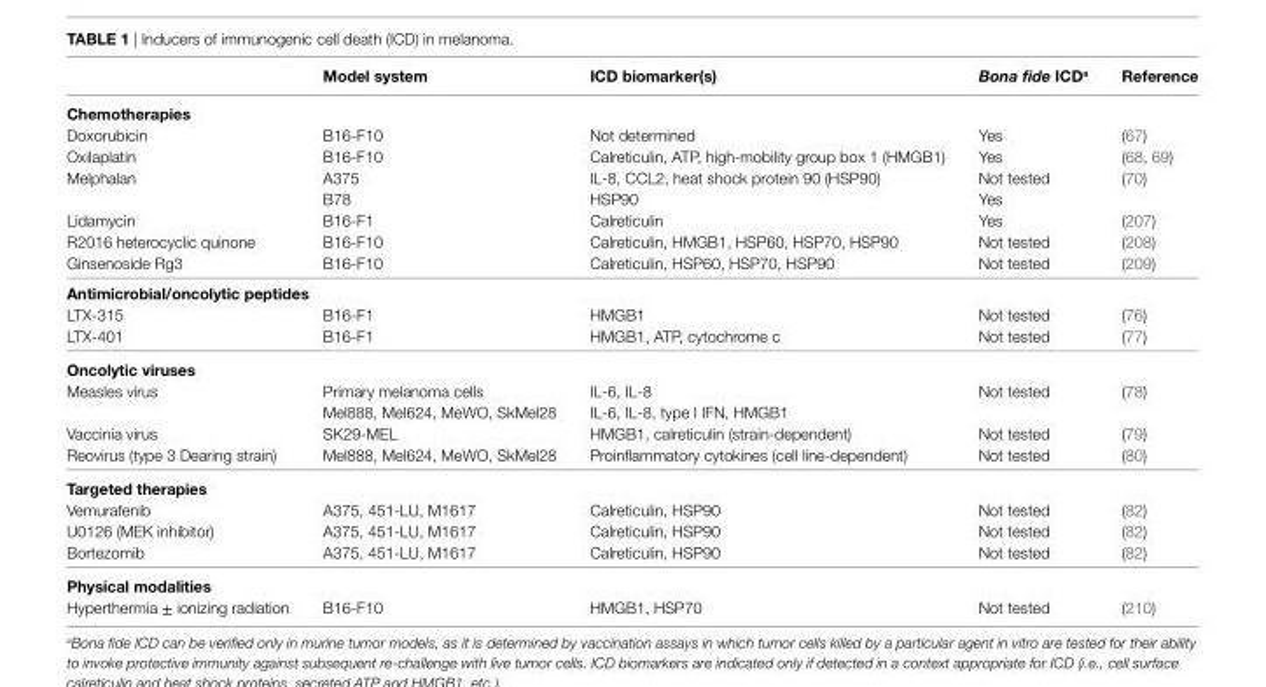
<table><thead><tr><td></td><td>Model system</td><td>iCD biomarker(s)</td><td>Bona fide iCD<sup>a</sup></td><td>Reference</td></tr></thead><tbody><tr><td colspan="5">Chemotherapies</td></tr><tr><td>Doxorubicin</td><td>B16-F10</td><td>Not determined</td><td>Yes</td><td>(67)</td></tr><tr><td>Oxilaplatin</td><td>B16-F10</td><td>Calreticulin, ATP, high-mobility group box 1 (HMGB1)</td><td>Yes</td><td>(68, 69)</td></tr><tr><td rowspan="2">Melphalan</td><td>A375</td><td>IL-8, CCL2, heat shock protein 90 (HSP90)</td><td>Not tested</td><td rowspan="2">(70)</td></tr><tr><td>B78</td><td>HSP90</td><td>Yes</td></tr><tr><td>Lidamycin</td><td>B16-F1</td><td>Calreticulin</td><td>Yes</td><td>(207)</td></tr><tr><td>R2016 heterocyclic quinone</td><td>B16-F10</td><td>Calreticulin, HMGB1, HSP60, HSP70, HSP90</td><td>Not tested</td><td>(208)</td></tr><tr><td>Ginsenoside Rg3</td><td>B16-F10</td><td>Calreticulin, HSP60, HSP70, HSP90</td><td>Not tested</td><td>(209)</td></tr><tr><td colspan="5">Antimicrobial/oncolytic peptides</td></tr><tr><td>LTX-315</td><td>B16-F1</td><td>HMGB1</td><td>Not tested</td><td>(76)</td></tr><tr><td>LTX-401</td><td>B16-F1</td><td>HMGB1, ATP, cytochrome c</td><td>Not tested</td><td>(77)</td></tr><tr><td colspan="5">Oncolytic viruses</td></tr><tr><td rowspan="2">Measles virus</td><td>Primary melanoma cells</td><td>IL-6, IL-8</td><td rowspan="2">Not tested</td><td rowspan="2">(78)</td></tr><tr><td>Mel888, Mel624, MeWO, SkMel28</td><td>IL-6, IL-8, type I IFN, HMGB1</td></tr><tr><td>Vaccinia virus</td><td>SK29-MEL</td><td>HMGB1, calreticulin (strain-dependent)</td><td>Not tested</td><td>(79)</td></tr><tr><td>Reovirus (type 3 Dearing strain)</td><td>Mel888, Mel624, MeWO, SkMel28</td><td>Proinflammatory cytokines (cell line-dependent)</td><td>Not tested</td><td>(80)</td></tr><tr><td colspan="5">Targeted therapies</td></tr><tr><td>Vemurafenib</td><td>A375, 451-LU, M1617</td><td>Calreticulin, HSP90</td><td>Not tested</td><td>(82)</td></tr><tr><td>U0126 (MEK inhibitor)</td><td>A375, 451-LU, M1617</td><td>Calreticulin, HSP90</td><td>Not tested</td><td>(82)</td></tr><tr><td>Bortezomib</td><td>A375, 451-LU, M1617</td><td>Calreticulin, HSP90</td><td>Not tested</td><td>(82)</td></tr><tr><td colspan="5">Physical modalities</td></tr><tr><td>Hyperthermia ± ionizing radiation</td><td>B16-F10</td><td>HMGB1, HSP70</td><td>Not tested</td><td>(210)</td></tr></tbody></table>